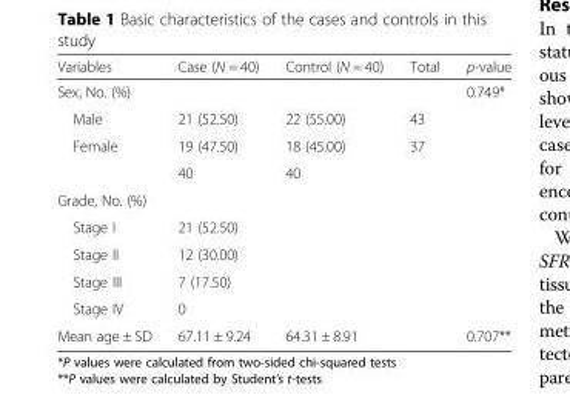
<table><thead><tr><td>Variables</td><td>Case (N = 40)</td><td>Control (N = 40)</td><td>Total</td><td>p-value</td></tr></thead><tbody><tr><td>Sex, No. (%)</td><td></td><td></td><td></td><td>0.749*</td></tr><tr><td>Male</td><td>21 (52.50)</td><td>22 (55.00)</td><td>43</td><td></td></tr><tr><td rowspan="2">Female</td><td>19 (47.50)</td><td>18 (45.00)</td><td>37</td><td></td></tr><tr><td>40</td><td>40</td><td></td><td></td></tr><tr><td colspan="5">Grade, No. (%)</td></tr><tr><td>Stage I</td><td>21 (52.50)</td><td></td><td></td><td></td></tr><tr><td>Stage II</td><td>12 (30.00)</td><td></td><td></td><td></td></tr><tr><td>Stage III</td><td>7 (17.50)</td><td></td><td></td><td></td></tr><tr><td>Stage IV</td><td>0</td><td></td><td></td><td></td></tr><tr><td>Mean age ± SD</td><td>67.11 ± 9.24</td><td>64.31 ± 8.91</td><td></td><td>0.707**</td></tr></tbody></table>